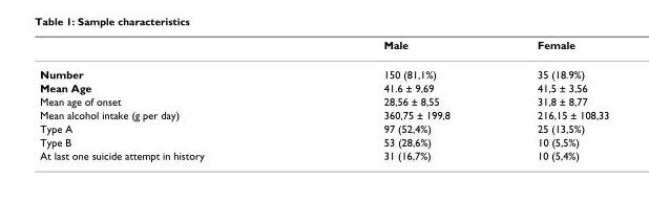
<table><thead><tr><td></td><td>Male</td><td>Female</td></tr></thead><tbody><tr><td>Number</td><td>150 (81,1%)</td><td>35 (18.9%)</td></tr><tr><td>Mean Age</td><td>41.6 ± 9,69</td><td>41,5 ± 3,56</td></tr><tr><td>Mean age of onset</td><td>28,56 ± 8,55</td><td>31,8 ± 8,77</td></tr><tr><td>Mean alcohol intake (g per day)</td><td>360,75 ± 199,8</td><td>216,15 ± 108,33</td></tr><tr><td>Type A</td><td>97 (52,4%)</td><td>25 (13,5%)</td></tr><tr><td>Type B</td><td>53 (28,6%)</td><td>10 (5,5%)</td></tr><tr><td>At last one suicide attempt in history</td><td>31 (16,7%)</td><td>10 (5,4%)</td></tr></tbody></table>